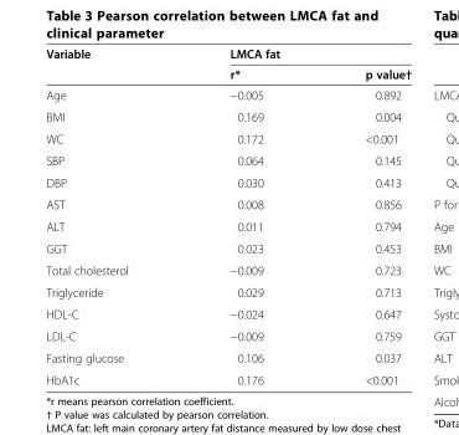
<table><thead><tr><td rowspan="2">Variable</td><td colspan="2">LMCA fat</td></tr><tr><td>r*</td><td>p value†</td></tr></thead><tbody><tr><td>Age</td><td>−0.005</td><td>0.892</td></tr><tr><td>BMI</td><td>0.169</td><td>0.004</td></tr><tr><td>WC</td><td>0.172</td><td>&lt;0.001</td></tr><tr><td>SBP</td><td>0.064</td><td>0.145</td></tr><tr><td>DBP</td><td>0.030</td><td>0.413</td></tr><tr><td>AST</td><td>0.008</td><td>0.856</td></tr><tr><td>ALT</td><td>0.011</td><td>0.794</td></tr><tr><td>GGT</td><td>0.023</td><td>0.453</td></tr><tr><td>Total cholesterol</td><td>−0.009</td><td>0.723</td></tr><tr><td>Triglyceride</td><td>0.029</td><td>0.713</td></tr><tr><td>HDL-C</td><td>−0.024</td><td>0.647</td></tr><tr><td>LDL-C</td><td>−0.009</td><td>0.759</td></tr><tr><td>Fasting glucose</td><td>0.106</td><td>0.037</td></tr><tr><td>HbA1c</td><td>0.176</td><td>&lt;0.001</td></tr></tbody></table>